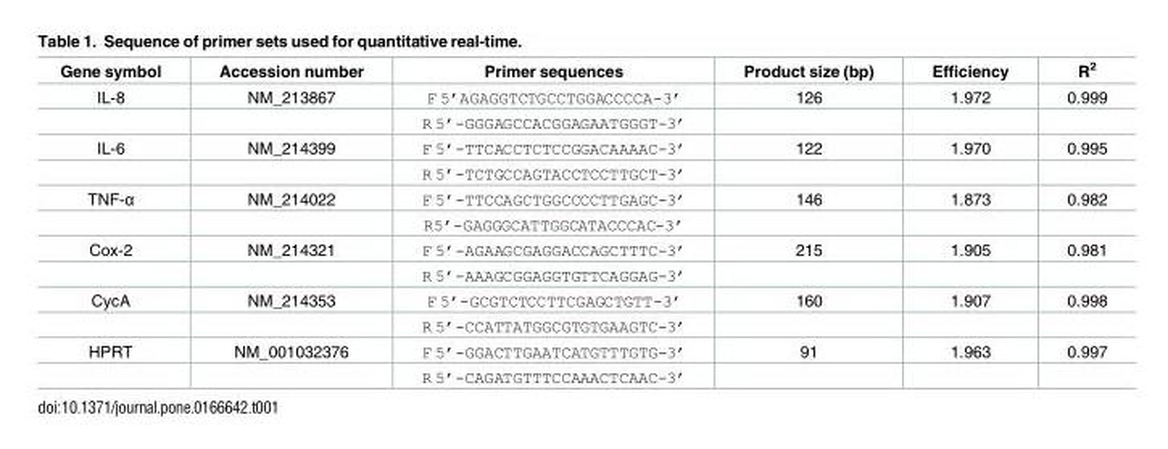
<table><thead><tr><td>Gene symbol</td><td>Accession number</td><td>Primer sequences</td><td>Product size (bp)</td><td>Efficiency</td><td>R<sup>2</sup></td></tr></thead><tbody><tr><td rowspan="2">IL-8</td><td>NM_213867</td><td>F 5’AGAGGTCTGCCTGGACCCCA-3’</td><td>126</td><td>1.972</td><td>0.999</td></tr><tr><td></td><td>R 5’-GGGAGCCACGGAGAATGGGT-3’</td><td></td><td></td><td></td></tr><tr><td rowspan="2">IL-6</td><td>NM_214399</td><td>F 5’-TTCACCTCTCCGGACAAAAC-3’</td><td>122</td><td>1.970</td><td>0.995</td></tr><tr><td></td><td>R 5’-TCTGCCAGTACCTCCTTGCT-3’</td><td></td><td></td><td></td></tr><tr><td rowspan="2">TNF-α</td><td>NM_214022</td><td>F 5’-TTCCAGCTGGCCCCTTGAGC-3’</td><td>146</td><td>1.873</td><td>0.982</td></tr><tr><td></td><td>R5’-GAGGGCATTGGCATACCCAC-3’</td><td></td><td></td><td></td></tr><tr><td rowspan="2">Cox-2</td><td>NM_214321</td><td>F 5’-AGAAGCGAGGACCAGCTTTC-3’</td><td>215</td><td>1.905</td><td>0.981</td></tr><tr><td></td><td>R 5’-AAAGCGGAGGTGTTCAGGAG-3’</td><td></td><td></td><td></td></tr><tr><td rowspan="2">CycA</td><td>NM_214353</td><td>F 5’-GCGTCTCCTTCGAGCTGTT-3’</td><td>160</td><td>1.907</td><td>0.998</td></tr><tr><td></td><td>R 5’-CCATTATGGCGTGTGAAGTC-3’</td><td></td><td></td><td></td></tr><tr><td rowspan="2">HPRT</td><td>NM_001032376</td><td>F 5’-GGACTTGAATCATGTTTGTG-3’</td><td>91</td><td>1.963</td><td>0.997</td></tr><tr><td></td><td>R 5’-CAGATGTTTCCAAACTCAAC-3’</td><td></td><td></td><td></td></tr></tbody></table>